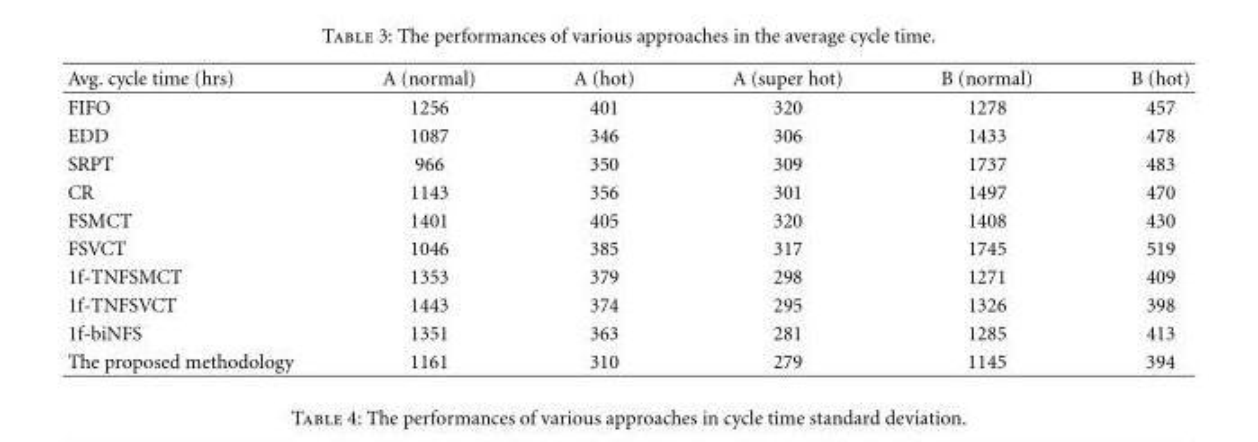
<table><thead><tr><td>Avg. cycle time (hrs)</td><td>A (normal)</td><td>A (hot)</td><td>A (super hot)</td><td>B (normal)</td><td>B (hot)</td></tr></thead><tbody><tr><td>FIFO</td><td>1256</td><td>401</td><td>320</td><td>1278</td><td>457</td></tr><tr><td>EDD</td><td>1087</td><td>346</td><td>306</td><td>1433</td><td>478</td></tr><tr><td>SRPT</td><td>966</td><td>350</td><td>309</td><td>1737</td><td>483</td></tr><tr><td>CR</td><td>1143</td><td>356</td><td>301</td><td>1497</td><td>470</td></tr><tr><td>FSMCT</td><td>1401</td><td>405</td><td>320</td><td>1408</td><td>430</td></tr><tr><td>FSVCT</td><td>1046</td><td>385</td><td>317</td><td>1745</td><td>519</td></tr><tr><td>1f-TNFSMCT</td><td>1353</td><td>379</td><td>298</td><td>1271</td><td>409</td></tr><tr><td>1f-TNFSVCT</td><td>1443</td><td>374</td><td>295</td><td>1326</td><td>398</td></tr><tr><td>1f-biNFS</td><td>1351</td><td>363</td><td>281</td><td>1285</td><td>413</td></tr><tr><td>The proposed methodology</td><td>1161</td><td>310</td><td>279</td><td>1145</td><td>394</td></tr></tbody></table>